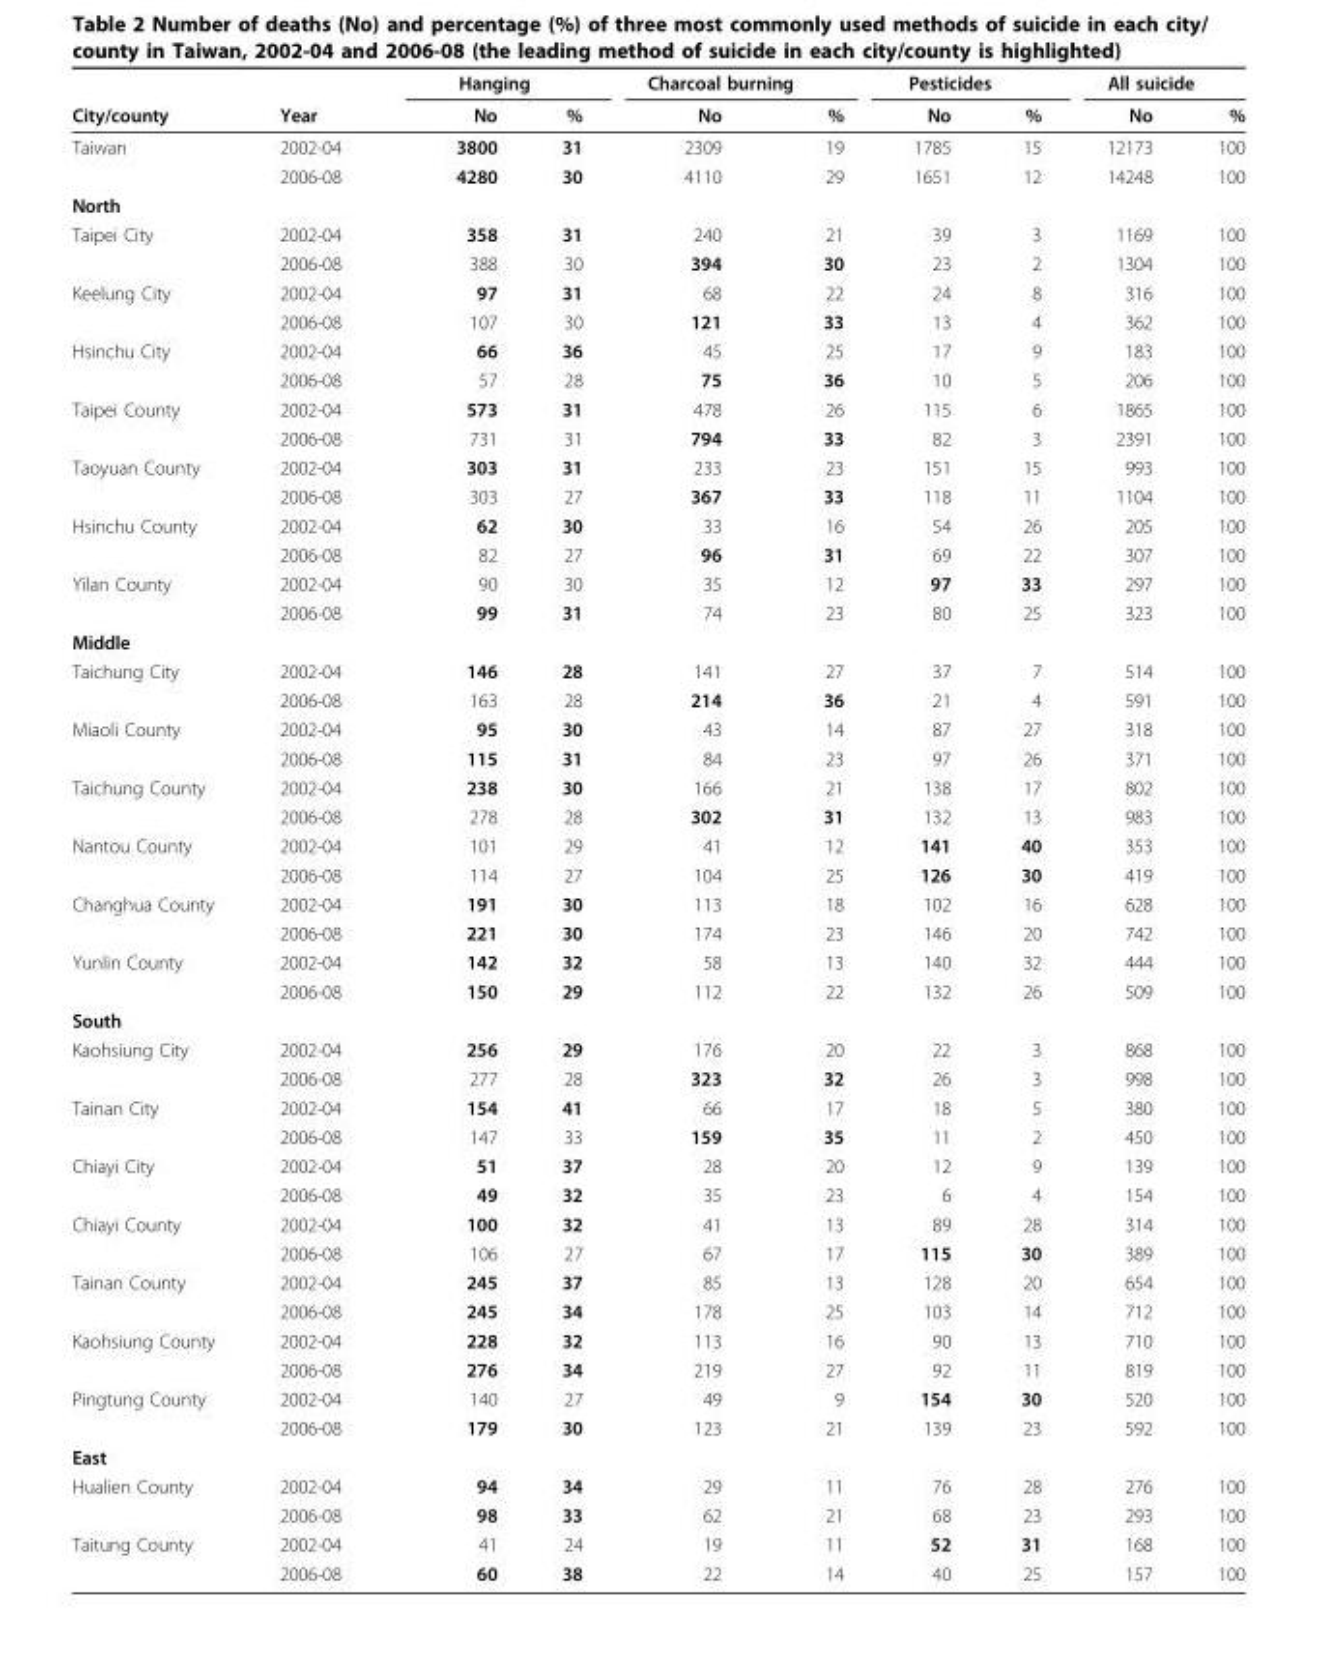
<table><thead><tr><td rowspan="2">City/county</td><td rowspan="2">Year</td><td colspan="2">Hanging</td><td colspan="2">Charcoal burning</td><td colspan="2">Pesticides</td><td colspan="2">All suicide</td></tr><tr><td>No</td><td>%</td><td>No</td><td>%</td><td>No</td><td>%</td><td>No</td><td>%</td></tr></thead><tbody><tr><td rowspan="2">Taiwan</td><td>2002-04</td><td>3800</td><td>31</td><td>2309</td><td>19</td><td>1785</td><td>15</td><td>12173</td><td>100</td></tr><tr><td>2006-08</td><td>4280</td><td>30</td><td>4110</td><td>29</td><td>1651</td><td>12</td><td>14248</td><td>100</td></tr><tr><td colspan="10">North</td></tr><tr><td rowspan="2">Taipei City</td><td>2002-04</td><td>358</td><td>31</td><td>240</td><td>21</td><td>39</td><td>3</td><td>1169</td><td>100</td></tr><tr><td>2006-08</td><td>388</td><td>30</td><td>394</td><td>30</td><td>23</td><td>2</td><td>1304</td><td>100</td></tr><tr><td rowspan="2">Keelung City</td><td>2002-04</td><td>97</td><td>31</td><td>68</td><td>22</td><td>24</td><td>8</td><td>316</td><td>100</td></tr><tr><td>2006-08</td><td>107</td><td>30</td><td>121</td><td>33</td><td>13</td><td>4</td><td>362</td><td>100</td></tr><tr><td rowspan="2">Hsinchu City</td><td>2002-04</td><td>66</td><td>36</td><td>45</td><td>25</td><td>17</td><td>9</td><td>183</td><td>100</td></tr><tr><td>2006-08</td><td>57</td><td>28</td><td>75</td><td>36</td><td>10</td><td>5</td><td>206</td><td>100</td></tr><tr><td rowspan="2">Taipei County</td><td>2002-04</td><td>573</td><td>31</td><td>478</td><td>26</td><td>115</td><td>6</td><td>1865</td><td>100</td></tr><tr><td>2006-08</td><td>731</td><td>31</td><td>794</td><td>33</td><td>82</td><td>3</td><td>2391</td><td>100</td></tr><tr><td rowspan="2">Taoyuan County</td><td>2002-04</td><td>303</td><td>31</td><td>233</td><td>23</td><td>151</td><td>15</td><td>993</td><td>100</td></tr><tr><td>2006-08</td><td>303</td><td>27</td><td>367</td><td>33</td><td>118</td><td>11</td><td>1104</td><td>100</td></tr><tr><td rowspan="2">Hsinchu County</td><td>2002-04</td><td>62</td><td>30</td><td>33</td><td>16</td><td>54</td><td>26</td><td>205</td><td>100</td></tr><tr><td>2006-08</td><td>82</td><td>27</td><td>96</td><td>31</td><td>69</td><td>22</td><td>307</td><td>100</td></tr><tr><td rowspan="2">Yilan County</td><td>2002-04</td><td>90</td><td>30</td><td>35</td><td>12</td><td>97</td><td>33</td><td>297</td><td>100</td></tr><tr><td>2006-08</td><td>99</td><td>31</td><td>74</td><td>23</td><td>80</td><td>25</td><td>323</td><td>100</td></tr><tr><td colspan="10">Middle</td></tr><tr><td rowspan="2">Taichung City</td><td>2002-04</td><td>146</td><td>28</td><td>141</td><td>27</td><td>37</td><td>7</td><td>514</td><td>100</td></tr><tr><td>2006-08</td><td>163</td><td>28</td><td>214</td><td>36</td><td>21</td><td>4</td><td>591</td><td>100</td></tr><tr><td rowspan="2">Miaoli County</td><td>2002-04</td><td>95</td><td>30</td><td>43</td><td>14</td><td>87</td><td>27</td><td>318</td><td>100</td></tr><tr><td>2006-08</td><td>115</td><td>31</td><td>84</td><td>23</td><td>97</td><td>26</td><td>371</td><td>100</td></tr><tr><td rowspan="2">Taichung County</td><td>2002-04</td><td>238</td><td>30</td><td>166</td><td>21</td><td>138</td><td>17</td><td>802</td><td>100</td></tr><tr><td>2006-08</td><td>278</td><td>28</td><td>302</td><td>31</td><td>132</td><td>13</td><td>983</td><td>100</td></tr><tr><td rowspan="2">Nantou County</td><td>2002-04</td><td>101</td><td>29</td><td>41</td><td>12</td><td>141</td><td>40</td><td>353</td><td>100</td></tr><tr><td>2006-08</td><td>114</td><td>27</td><td>104</td><td>25</td><td>126</td><td>30</td><td>419</td><td>100</td></tr><tr><td rowspan="2">Changhua County</td><td>2002-04</td><td>191</td><td>30</td><td>113</td><td>18</td><td>102</td><td>16</td><td>628</td><td>100</td></tr><tr><td>2006-08</td><td>221</td><td>30</td><td>174</td><td>23</td><td>146</td><td>20</td><td>742</td><td>100</td></tr><tr><td rowspan="2">Yunlin County</td><td>2002-04</td><td>142</td><td>32</td><td>58</td><td>13</td><td>140</td><td>32</td><td>444</td><td>100</td></tr><tr><td>2006-08</td><td>150</td><td>29</td><td>112</td><td>22</td><td>132</td><td>26</td><td>509</td><td>100</td></tr><tr><td colspan="10">South</td></tr><tr><td rowspan="2">Kaohsiung City</td><td>2002-04</td><td>256</td><td>29</td><td>176</td><td>20</td><td>22</td><td>3</td><td>868</td><td>100</td></tr><tr><td>2006-08</td><td>277</td><td>28</td><td>323</td><td>32</td><td>26</td><td>3</td><td>998</td><td>100</td></tr><tr><td rowspan="2">Tainan City</td><td>2002-04</td><td>154</td><td>41</td><td>66</td><td>17</td><td>18</td><td>5</td><td>380</td><td>100</td></tr><tr><td>2006-08</td><td>147</td><td>33</td><td>159</td><td>35</td><td>11</td><td>2</td><td>450</td><td>100</td></tr><tr><td rowspan="2">Chiayi City</td><td>2002-04</td><td>51</td><td>37</td><td>28</td><td>20</td><td>12</td><td>9</td><td>139</td><td>100</td></tr><tr><td>2006-08</td><td>49</td><td>32</td><td>35</td><td>23</td><td>6</td><td>4</td><td>154</td><td>100</td></tr><tr><td rowspan="2">Chiayi County</td><td>2002-04</td><td>100</td><td>32</td><td>41</td><td>13</td><td>89</td><td>28</td><td>314</td><td>100</td></tr><tr><td>2006-08</td><td>106</td><td>27</td><td>67</td><td>17</td><td>115</td><td>30</td><td>389</td><td>100</td></tr><tr><td rowspan="2">Tainan County</td><td>2002-04</td><td>245</td><td>37</td><td>85</td><td>13</td><td>128</td><td>20</td><td>654</td><td>100</td></tr><tr><td>2006-08</td><td>245</td><td>34</td><td>178</td><td>25</td><td>103</td><td>14</td><td>712</td><td>100</td></tr><tr><td rowspan="2">Kaohsiung County</td><td>2002-04</td><td>228</td><td>32</td><td>113</td><td>16</td><td>90</td><td>13</td><td>710</td><td>100</td></tr><tr><td>2006-08</td><td>276</td><td>34</td><td>219</td><td>27</td><td>92</td><td>11</td><td>819</td><td>100</td></tr><tr><td rowspan="2">Pingtung County</td><td>2002-04</td><td>140</td><td>27</td><td>49</td><td>9</td><td>154</td><td>30</td><td>520</td><td>100</td></tr><tr><td>2006-08</td><td>179</td><td>30</td><td>123</td><td>21</td><td>139</td><td>23</td><td>592</td><td>100</td></tr><tr><td colspan="10">East</td></tr><tr><td rowspan="2">Hualien County</td><td>2002-04</td><td>94</td><td>34</td><td>29</td><td>11</td><td>76</td><td>28</td><td>276</td><td>100</td></tr><tr><td>2006-08</td><td>98</td><td>33</td><td>62</td><td>21</td><td>68</td><td>23</td><td>293</td><td>100</td></tr><tr><td rowspan="2">Taitung County</td><td>2002-04</td><td>41</td><td>24</td><td>19</td><td>11</td><td>52</td><td>31</td><td>168</td><td>100</td></tr><tr><td>2006-08</td><td>60</td><td>38</td><td>22</td><td>14</td><td>40</td><td>25</td><td>157</td><td>100</td></tr></tbody></table>